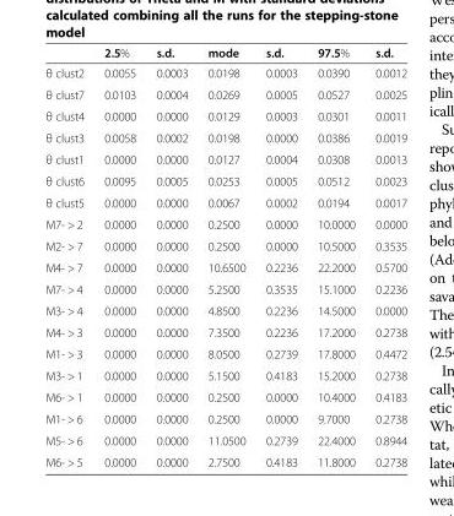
<table><thead><tr><td></td><td>2.5%</td><td>s.d.</td><td>mode</td><td>s.d.</td><td>97.5%</td><td>s.d.</td></tr></thead><tbody><tr><td>θ clust2</td><td>0.0055</td><td>0.0003</td><td>0.0198</td><td>0.0003</td><td>0.0390</td><td>0.0012</td></tr><tr><td>θ clust7</td><td>0.0103</td><td>0.0004</td><td>0.0269</td><td>0.0005</td><td>0.0527</td><td>0.0025</td></tr><tr><td>θ clust4</td><td>0.0000</td><td>0.0000</td><td>0.0129</td><td>0.0003</td><td>0.0301</td><td>0.0011</td></tr><tr><td>θ clust3</td><td>0.0058</td><td>0.0002</td><td>0.0198</td><td>0.0000</td><td>0.0386</td><td>0.0019</td></tr><tr><td>θ clust1</td><td>0.0000</td><td>0.0000</td><td>0.0127</td><td>0.0004</td><td>0.0308</td><td>0.0013</td></tr><tr><td>θ clust6</td><td>0.0095</td><td>0.0005</td><td>0.0253</td><td>0.0005</td><td>0.0512</td><td>0.0023</td></tr><tr><td>θ clust5</td><td>0.0000</td><td>0.0000</td><td>0.0067</td><td>0.0002</td><td>0.0194</td><td>0.0017</td></tr><tr><td>M7- &gt; 2</td><td>0.0000</td><td>0.0000</td><td>0.2500</td><td>0.0000</td><td>10.0000</td><td>0.0000</td></tr><tr><td>M2- &gt; 7</td><td>0.0000</td><td>0.0000</td><td>0.2500</td><td>0.0000</td><td>10.5000</td><td>0.3535</td></tr><tr><td>M4- &gt; 7</td><td>0.0000</td><td>0.0000</td><td>10.6500</td><td>0.2236</td><td>22.2000</td><td>0.5700</td></tr><tr><td>M7- &gt; 4</td><td>0.0000</td><td>0.0000</td><td>5.2500</td><td>0.3535</td><td>15.1000</td><td>0.2236</td></tr><tr><td>M3- &gt; 4</td><td>0.0000</td><td>0.0000</td><td>4.8500</td><td>0.2236</td><td>14.5000</td><td>0.0000</td></tr><tr><td>M4- &gt; 3</td><td>0.0000</td><td>0.0000</td><td>7.3500</td><td>0.2236</td><td>17.2000</td><td>0.2738</td></tr><tr><td>M1- &gt; 3</td><td>0.0000</td><td>0.0000</td><td>8.0500</td><td>0.2739</td><td>17.8000</td><td>0.4472</td></tr><tr><td>M3- &gt; 1</td><td>0.0000</td><td>0.0000</td><td>5.1500</td><td>0.4183</td><td>15.2000</td><td>0.2738</td></tr><tr><td>M6- &gt; 1</td><td>0.0000</td><td>0.0000</td><td>0.2500</td><td>0.0000</td><td>10.4000</td><td>0.4183</td></tr><tr><td>M1- &gt; 6</td><td>0.0000</td><td>0.0000</td><td>0.2500</td><td>0.0000</td><td>9.7000</td><td>0.2738</td></tr><tr><td>M5- &gt; 6</td><td>0.0000</td><td>0.0000</td><td>11.0500</td><td>0.2739</td><td>22.4000</td><td>0.8944</td></tr><tr><td>M6- &gt; 5</td><td>0.0000</td><td>0.0000</td><td>2.7500</td><td>0.4183</td><td>11.8000</td><td>0.2738</td></tr></tbody></table>